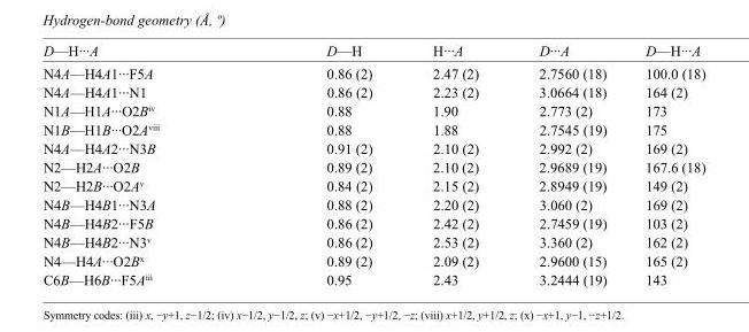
<table><tbody><tr><td>D—H···A</td><td>D—H</td><td>H···A</td><td>D···A</td><td>D—H···A</td></tr><tr><td>N4A—H4A1···F5A</td><td>0.86 (2)</td><td>2.47 (2)</td><td>2.7560 (18)</td><td>100.0 (18)</td></tr><tr><td>N4A—H4A1···N1</td><td>0.86 (2)</td><td>2.23 (2)</td><td>3.0664 (18)</td><td>164 (2)</td></tr><tr><td>N1A—H1A···O2B<sup>iv</sup></td><td>0.88</td><td>1.90</td><td>2.773 (2)</td><td>173</td></tr><tr><td>N1B—H1B···O2A<sup>viii</sup></td><td>0.88</td><td>1.88</td><td>2.7545 (19)</td><td>175</td></tr><tr><td>N4A—H4A2···N3B</td><td>0.91 (2)</td><td>2.10 (2)</td><td>2.992 (2)</td><td>169 (2)</td></tr><tr><td>N2—H2A···O2B</td><td>0.89 (2)</td><td>2.10 (2)</td><td>2.9689 (19)</td><td>167.6 (18)</td></tr><tr><td>N2—H2B···O2A<sup>v</sup></td><td>0.84 (2)</td><td>2.15 (2)</td><td>2.8949 (19)</td><td>149 (2)</td></tr><tr><td>N4B—H4B1···N3A</td><td>0.88 (2)</td><td>2.20 (2)</td><td>3.060 (2)</td><td>169 (2)</td></tr><tr><td>N4B—H4B2···F5B</td><td>0.86 (2)</td><td>2.42 (2)</td><td>2.7459 (19)</td><td>103 (2)</td></tr><tr><td>N4B—H4B2···N3<sup>v</sup></td><td>0.86 (2)</td><td>2.53 (2)</td><td>3.360 (2)</td><td>162 (2)</td></tr><tr><td>N4—H4A···O2B<sup>x</sup></td><td>0.89 (2)</td><td>2.09 (2)</td><td>2.9600 (15)</td><td>165 (2)</td></tr><tr><td>C6B—H6B···F5A<sup>iii</sup></td><td>0.95</td><td>2.43</td><td>3.2444 (19)</td><td>143</td></tr></tbody></table>